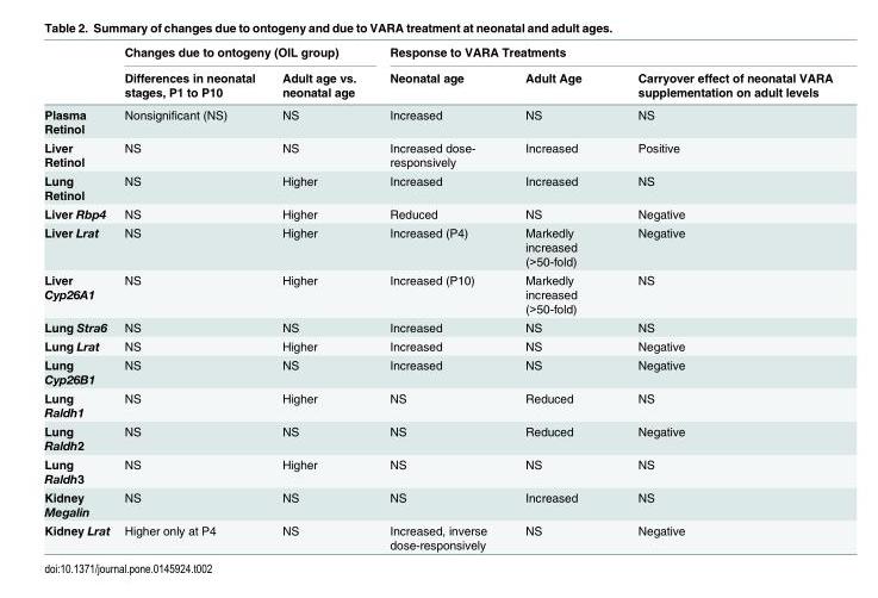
<table><thead><tr><td rowspan="2"></td><td colspan="2">Changes due to ontogeny (OIL group)</td><td colspan="3">Response to VARA Treatments</td></tr><tr><td>Differences in neonatal stages, P1 to P10</td><td>Adult age vs. neonatal age</td><td>Neonatal age</td><td>Adult Age</td><td>Carryover effect of neonatal VARA supplementation on adult levels</td></tr></thead><tbody><tr><td>Plasma Retinol</td><td>Nonsignificant (NS)</td><td>NS</td><td>Increased</td><td>NS</td><td>NS</td></tr><tr><td>Liver Retinol</td><td>NS</td><td>NS</td><td>Increased dose- responsively</td><td>Increased</td><td>Positive</td></tr><tr><td>Lung Retinol</td><td>NS</td><td>Higher</td><td>Increased</td><td>Increased</td><td>NS</td></tr><tr><td>Liver Rbp4</td><td>NS</td><td>Higher</td><td>Reduced</td><td>NS</td><td>Negative</td></tr><tr><td>Liver Lrat</td><td>NS</td><td>Higher</td><td>Increased (P4)</td><td>Markedly increased (&gt;50-fold)</td><td>Negative</td></tr><tr><td>Liver Cyp26A1</td><td>NS</td><td>Higher</td><td>Increased (P10)</td><td>Markedly increased (&gt;50-fold)</td><td>NS</td></tr><tr><td>Lung Stra6</td><td>NS</td><td>NS</td><td>Increased</td><td>NS</td><td>NS</td></tr><tr><td>Lung Lrat</td><td>NS</td><td>Higher</td><td>Increased</td><td>NS</td><td>Negative</td></tr><tr><td>Lung Cyp26B1</td><td>NS</td><td>NS</td><td>Increased</td><td>NS</td><td>Negative</td></tr><tr><td>Lung Raldh1</td><td>NS</td><td>Higher</td><td>NS</td><td>Reduced</td><td>NS</td></tr><tr><td>Lung Raldh2</td><td>NS</td><td>NS</td><td>NS</td><td>Reduced</td><td>Negative</td></tr><tr><td>Lung Raldh3</td><td>NS</td><td>Higher</td><td>NS</td><td>NS</td><td>NS</td></tr><tr><td>Kidney Megalin</td><td>NS</td><td>NS</td><td>NS</td><td>Increased</td><td>NS</td></tr><tr><td>Kidney Lrat</td><td>Higher only at P4</td><td>NS</td><td>Increased, inverse dose-responsively</td><td>NS</td><td>Negative</td></tr></tbody></table>